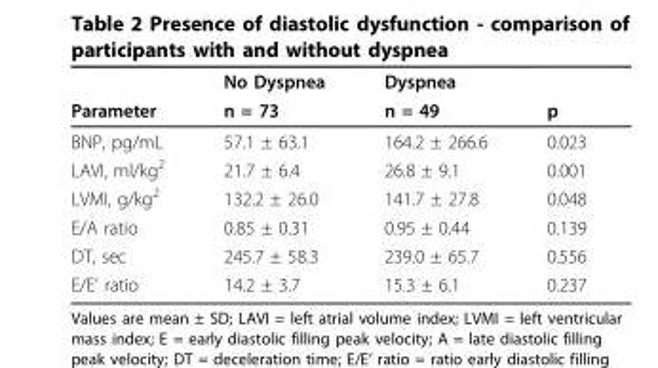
<table><thead><tr><td rowspan="2">Parameter</td><td rowspan="2">No Dyspnea n = 73</td><td rowspan="2">Dyspnea n = 49</td><td rowspan="2">p</td></tr><tr></tr></thead><tbody><tr><td>BNP, pg/mL</td><td>57.1 ± 63.1</td><td>164.2 ± 266.6</td><td>0.023</td></tr><tr><td>LAVI, ml/kg<sup>2</sup></td><td>21.7 ± 6.4</td><td>26.8 ± 9.1</td><td>0.001</td></tr><tr><td>LVMI, g/kg<sup>2</sup></td><td>132.2 ± 26.0</td><td>141.7 ± 27.8</td><td>0.048</td></tr><tr><td>E/A ratio</td><td>0.85 ± 0.31</td><td>0.95 ± 0.44</td><td>0.139</td></tr><tr><td>DT, sec</td><td>245.7 ± 58.3</td><td>239.0 ± 65.7</td><td>0.556</td></tr><tr><td>E/E’ ratio</td><td>14.2 ± 3.7</td><td>15.3 ± 6.1</td><td>0.237</td></tr></tbody></table>